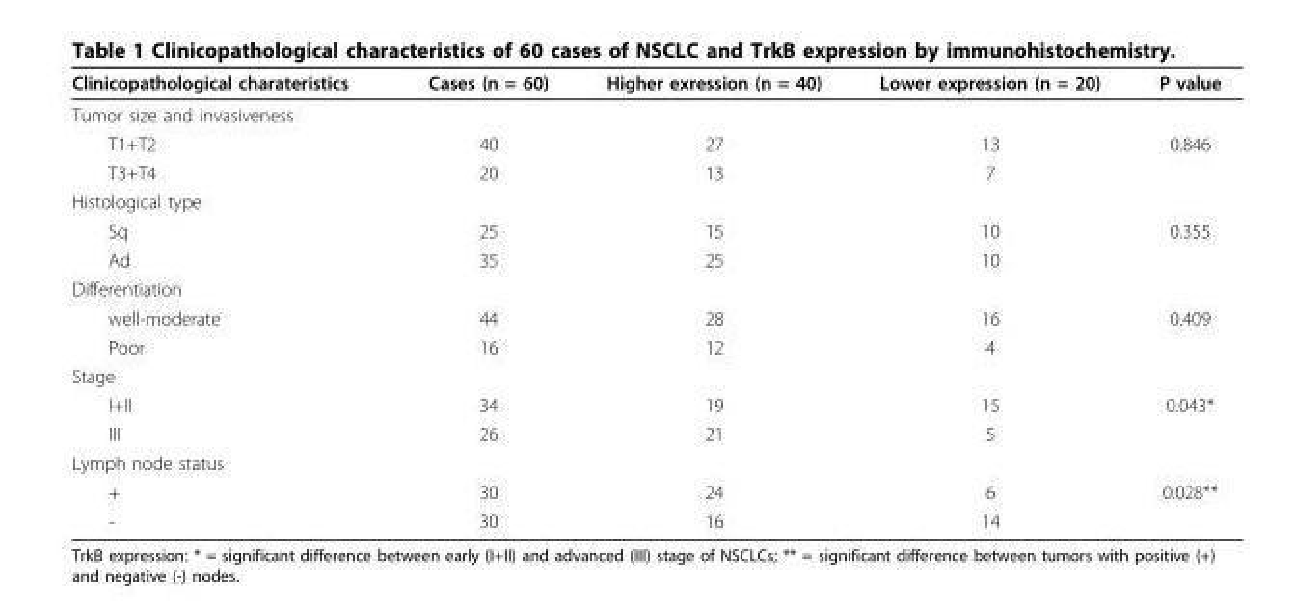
<table><thead><tr><td>Clinicopathological charateristics</td><td>Cases (n = 60)</td><td>Higher exression (n = 40)</td><td>Lower expression (n = 20)</td><td>P value</td></tr></thead><tbody><tr><td colspan="5">Tumor size and invasiveness</td></tr><tr><td>T1+T2</td><td>40</td><td>27</td><td>13</td><td>0.846</td></tr><tr><td>T3+T4</td><td>20</td><td>13</td><td>7</td><td></td></tr><tr><td colspan="5">Histological type</td></tr><tr><td>Sq</td><td>25</td><td>15</td><td>10</td><td>0.355</td></tr><tr><td>Ad</td><td>35</td><td>25</td><td>10</td><td></td></tr><tr><td colspan="5">Differentiation</td></tr><tr><td>well-moderate</td><td>44</td><td>28</td><td>16</td><td>0.409</td></tr><tr><td>Poor</td><td>16</td><td>12</td><td>4</td><td></td></tr><tr><td colspan="5">Stage</td></tr><tr><td>I+II</td><td>34</td><td>19</td><td>15</td><td>0.043*</td></tr><tr><td>III</td><td>26</td><td>21</td><td>5</td><td></td></tr><tr><td colspan="5">Lymph node status</td></tr><tr><td>+</td><td>30</td><td>24</td><td>6</td><td>0.028**</td></tr><tr><td>-</td><td>30</td><td>16</td><td>14</td><td></td></tr></tbody></table>